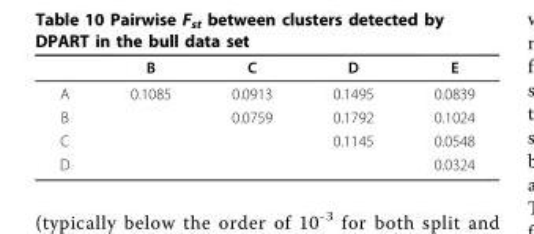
<table><thead><tr><td></td><td>B</td><td>C</td><td>D</td><td>E</td></tr></thead><tbody><tr><td>A</td><td>0.1085</td><td>0.0913</td><td>0.1495</td><td>0.0839</td></tr><tr><td>B</td><td></td><td>0.0759</td><td>0.1792</td><td>0.1024</td></tr><tr><td>C</td><td></td><td></td><td>0.1145</td><td>0.0548</td></tr><tr><td>D</td><td></td><td></td><td></td><td>0.0324</td></tr></tbody></table>